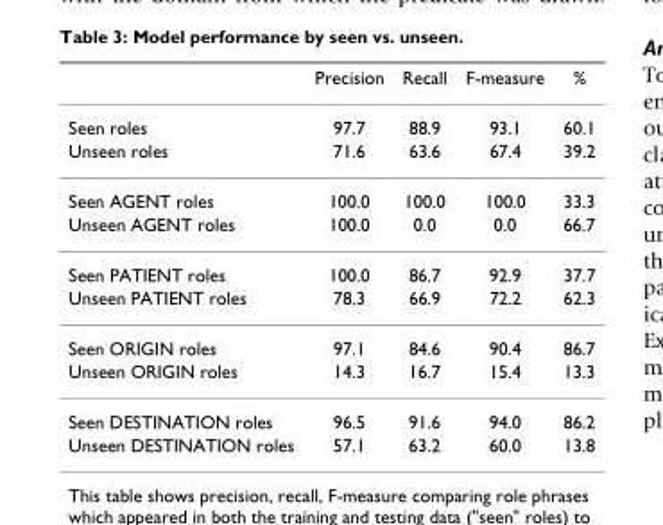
<table><thead><tr><td></td><td>Precision</td><td>Recall</td><td>F-measure</td><td>%</td></tr></thead><tbody><tr><td>Seen roles</td><td>97.7</td><td>88.9</td><td>93.1</td><td>60.1</td></tr><tr><td>Unseen roles</td><td>71.6</td><td>63.6</td><td>67.4</td><td>39.2</td></tr><tr><td>Seen AGENT roles</td><td>100.0</td><td>100.0</td><td>100.0</td><td>33.3</td></tr><tr><td>Unseen AGENT roles</td><td>100.0</td><td>0.0</td><td>0.0</td><td>66.7</td></tr><tr><td>Seen PATIENT roles</td><td>100.0</td><td>86.7</td><td>92.9</td><td>37.7</td></tr><tr><td>Unseen PATIENT roles</td><td>78.3</td><td>66.9</td><td>72.2</td><td>62.3</td></tr><tr><td>Seen ORIGIN roles</td><td>97.1</td><td>84.6</td><td>90.4</td><td>86.7</td></tr><tr><td>Unseen ORIGIN roles</td><td>14.3</td><td>16.7</td><td>15.4</td><td>13.3</td></tr><tr><td>Seen DESTINATION roles</td><td>96.5</td><td>91.6</td><td>94.0</td><td>86.2</td></tr><tr><td>Unseen DESTINATION roles</td><td>57.1</td><td>63.2</td><td>60.0</td><td>13.8</td></tr></tbody></table>